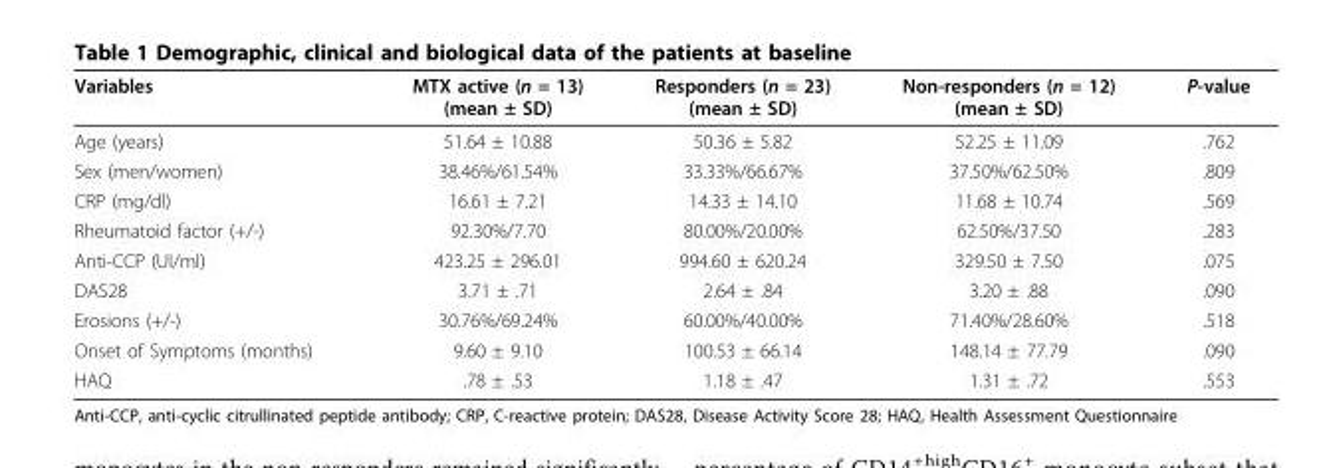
<table><thead><tr><td>Variables</td><td>MTX active (n = 13) (mean ± SD)</td><td>Responders (n = 23) (mean ± SD)</td><td>Non-responders (n = 12) (mean ± SD)</td><td>P-value</td></tr></thead><tbody><tr><td>Age (years)</td><td>51.64 ± 10.88</td><td>50.36 ± 5.82</td><td>52.25 ± 11.09</td><td>.762</td></tr><tr><td>Sex (men/women)</td><td>38.46%/61.54%</td><td>33.33%/66.67%</td><td>37.50%/62.50%</td><td>.809</td></tr><tr><td>CRP (mg/dl)</td><td>16.61 ± 7.21</td><td>14.33 ± 14.10</td><td>11.68 ± 10.74</td><td>.569</td></tr><tr><td>Rheumatoid factor (+/-)</td><td>92.30%/7.70</td><td>80.00%/20.00%</td><td>62.50%/37.50</td><td>.283</td></tr><tr><td>Anti-CCP (UI/ml)</td><td>423.25 ± 296.01</td><td>994.60 ± 620.24</td><td>329.50 ± 7.50</td><td>.075</td></tr><tr><td>DAS28</td><td>3.71 ± .71</td><td>2.64 ± .84</td><td>3.20 ± .88</td><td>.090</td></tr><tr><td>Erosions (+/-)</td><td>30.76%/69.24%</td><td>60.00%/40.00%</td><td>71.40%/28.60%</td><td>.518</td></tr><tr><td>Onset of Symptoms (months)</td><td>9.60 ± 9.10</td><td>100.53 ± 66.14</td><td>148.14 ± 77.79</td><td>.090</td></tr><tr><td>HAQ</td><td>.78 ± .53</td><td>1.18 ± .47</td><td>1.31 ± .72</td><td>.553</td></tr></tbody></table>